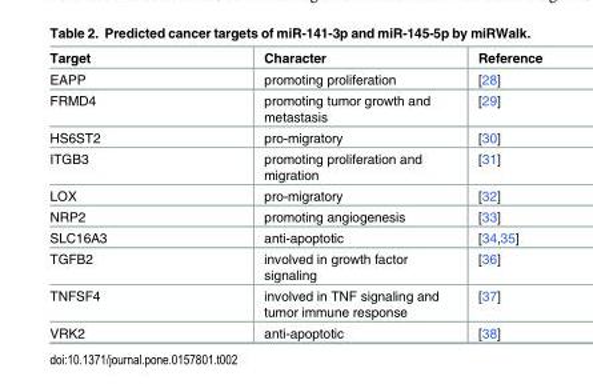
<table><thead><tr><td>Target</td><td>Character</td><td>Reference</td></tr></thead><tbody><tr><td>EAPP</td><td>promoting proliferation</td><td>[28]</td></tr><tr><td>FRMD4</td><td>promoting tumor growth and metastasis</td><td>[29]</td></tr><tr><td>HS6ST2</td><td>pro-migratory</td><td>[30]</td></tr><tr><td>ITGB3</td><td>promoting proliferation and migration</td><td>[31]</td></tr><tr><td>LOX</td><td>pro-migratory</td><td>[32]</td></tr><tr><td>NRP2</td><td>promoting angiogenesis</td><td>[33]</td></tr><tr><td>SLC16A3</td><td>anti-apoptotic</td><td>[34,35]</td></tr><tr><td>TGFB2</td><td>involved in growth factor signaling</td><td>[36]</td></tr><tr><td>TNFSF4</td><td>involved in TNF signaling and tumor immune response</td><td>[37]</td></tr><tr><td>VRK2</td><td>anti-apoptotic</td><td>[38]</td></tr></tbody></table>